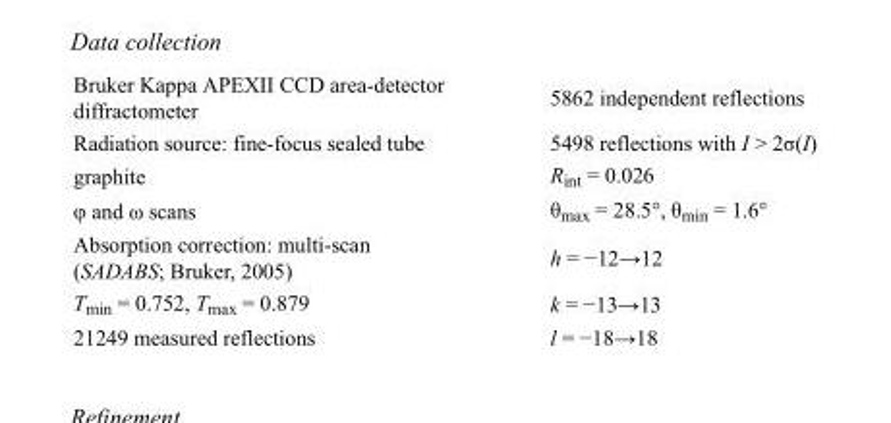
<table><tbody><tr><td>Bruker Kappa APEXII CCD area-detector diffractometer</td><td>5862 independent reflections</td></tr><tr><td>Radiation source: fine-focus sealed tube</td><td>5498 reflections with I &gt; 2σ(I)</td></tr><tr><td>graphite</td><td>R<sub>int</sub> = 0.026</td></tr><tr><td>φ and ω scans</td><td>θ<sub>max</sub> = 28.5°, θ<sub>min</sub> = 1.6°</td></tr><tr><td>Absorption correction: multi-scan (SADABS; Bruker, 2005)</td><td>h = −12→12</td></tr><tr><td>T<sub>min</sub> = 0.752, T<sub>max</sub> = 0.879</td><td>k = −13→13</td></tr><tr><td>21249 measured reflections</td><td>l = −18→18</td></tr></tbody></table>